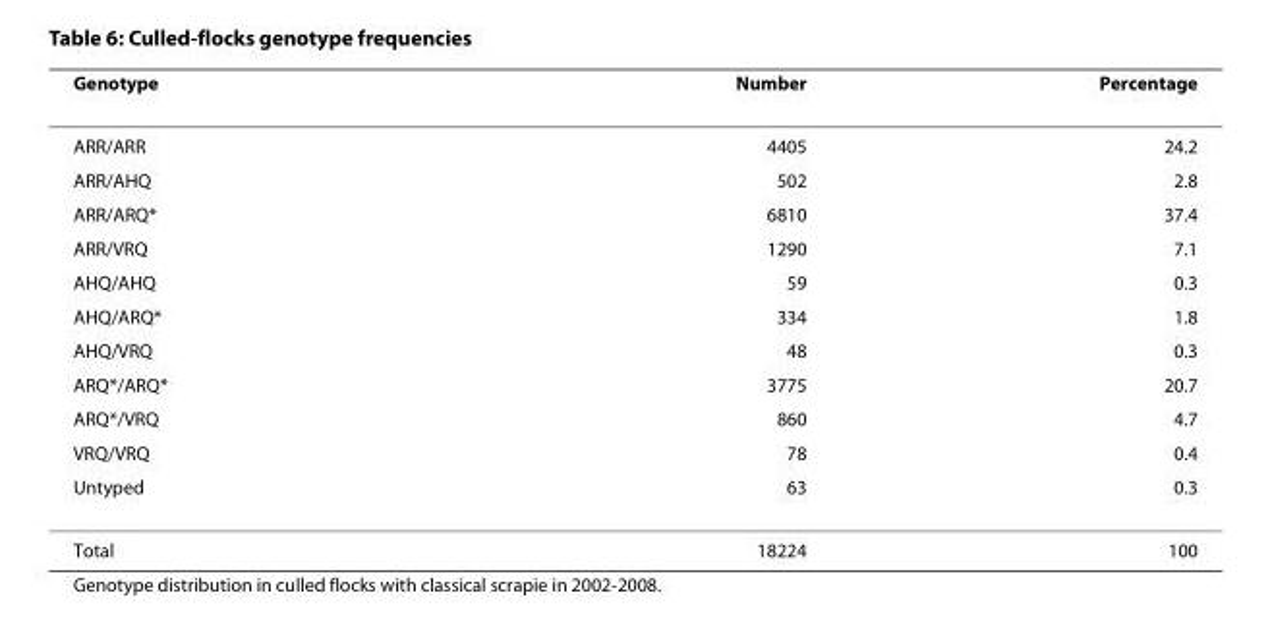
<table><thead><tr><td>Genotype</td><td>Number</td><td>Percentage</td></tr></thead><tbody><tr><td>ARR/ARR</td><td>4405</td><td>24.2</td></tr><tr><td>ARR/AHQ</td><td>502</td><td>2.8</td></tr><tr><td>ARR/ARQ*</td><td>6810</td><td>37.4</td></tr><tr><td>ARR/VRQ</td><td>1290</td><td>7.1</td></tr><tr><td>AHQ/AHQ</td><td>59</td><td>0.3</td></tr><tr><td>AHQ/ARQ*</td><td>334</td><td>1.8</td></tr><tr><td>AHQ/VRQ</td><td>48</td><td>0.3</td></tr><tr><td>ARQ*/ARQ*</td><td>3775</td><td>20.7</td></tr><tr><td>ARQ*/VRQ</td><td>860</td><td>4.7</td></tr><tr><td>VRQ/VRQ</td><td>78</td><td>0.4</td></tr><tr><td>Untyped</td><td>63</td><td>0.3</td></tr><tr><td>Total</td><td>18224</td><td>100</td></tr></tbody></table>